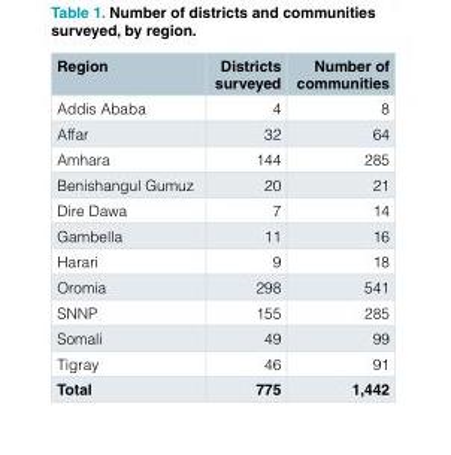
<table><thead><tr><td>Region</td><td>Districts surveyed</td><td>Number of communities</td></tr></thead><tbody><tr><td>Addis Ababa</td><td>4</td><td>8</td></tr><tr><td>Affar</td><td>32</td><td>64</td></tr><tr><td>Amhara</td><td>144</td><td>285</td></tr><tr><td>Benishangul Gumuz</td><td>20</td><td>21</td></tr><tr><td>Dire Dawa</td><td>7</td><td>14</td></tr><tr><td>Gambella</td><td>11</td><td>16</td></tr><tr><td>Harari</td><td>9</td><td>18</td></tr><tr><td>Oromia</td><td>298</td><td>541</td></tr><tr><td>SNNP</td><td>155</td><td>285</td></tr><tr><td>Somali</td><td>49</td><td>99</td></tr><tr><td>Tigray</td><td>46</td><td>91</td></tr><tr><td>Total</td><td>775</td><td>1,442</td></tr></tbody></table>